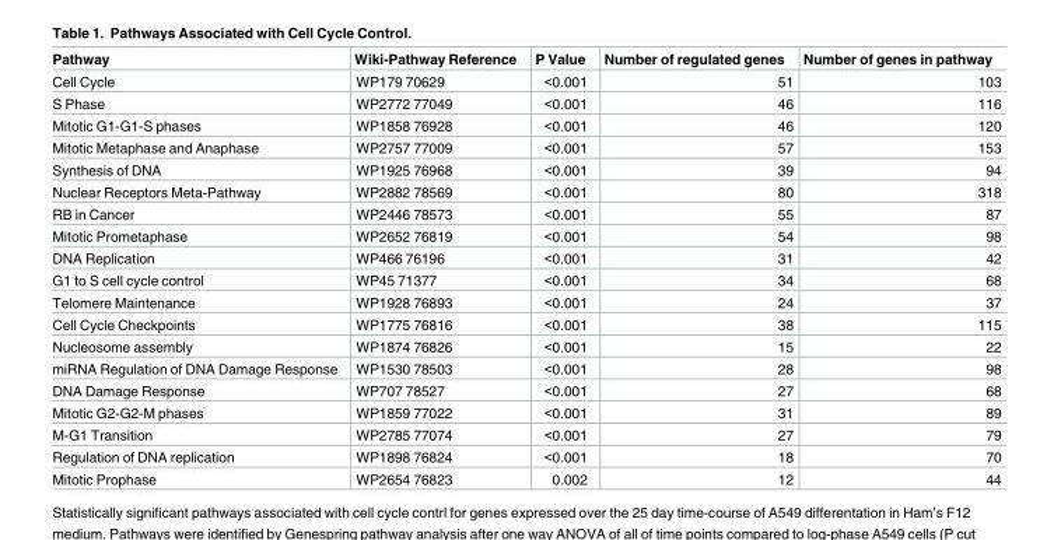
<table><thead><tr><td>Pathway</td><td>Wiki-Pathway Reference</td><td>P Value</td><td>Number of regulated genes</td><td>Number of genes in pathway</td></tr></thead><tbody><tr><td>Cell Cycle</td><td>WP179 70629</td><td>&lt;0.001</td><td>51</td><td>103</td></tr><tr><td>S Phase</td><td>WP2772 77049</td><td>&lt;0.001</td><td>46</td><td>116</td></tr><tr><td>Mitotic G1-G1-S phases</td><td>WP1858 76928</td><td>&lt;0.001</td><td>46</td><td>120</td></tr><tr><td>Mitotic Metaphase and Anaphase</td><td>WP2757 77009</td><td>&lt;0.001</td><td>57</td><td>153</td></tr><tr><td>Synthesis of DNA</td><td>WP1925 76968</td><td>&lt;0.001</td><td>39</td><td>94</td></tr><tr><td>Nuclear Receptors Meta-Pathway</td><td>WP2882 78569</td><td>&lt;0.001</td><td>80</td><td>318</td></tr><tr><td>RB in Cancer</td><td>WP2446 78573</td><td>&lt;0.001</td><td>55</td><td>87</td></tr><tr><td>Mitotic Prometaphase</td><td>WP2652 76819</td><td>&lt;0.001</td><td>54</td><td>98</td></tr><tr><td>DNA Replication</td><td>WP466 76196</td><td>&lt;0.001</td><td>31</td><td>42</td></tr><tr><td>G1 to S cell cycle control</td><td>WP45 71377</td><td>&lt;0.001</td><td>34</td><td>68</td></tr><tr><td>Telomere Maintenance</td><td>WP1928 76893</td><td>&lt;0.001</td><td>24</td><td>37</td></tr><tr><td>Cell Cycle Checkpoints</td><td>WP1775 76816</td><td>&lt;0.001</td><td>38</td><td>115</td></tr><tr><td>Nucleosome assembly</td><td>WP1874 76826</td><td>&lt;0.001</td><td>15</td><td>22</td></tr><tr><td>miRNA Regulation of DNA Damage Response</td><td>WP1530 78503</td><td>&lt;0.001</td><td>28</td><td>98</td></tr><tr><td>DNA Damage Response</td><td>WP707 78527</td><td>&lt;0.001</td><td>27</td><td>68</td></tr><tr><td>Mitotic G2-G2-M phases</td><td>WP1859 77022</td><td>&lt;0.001</td><td>31</td><td>89</td></tr><tr><td>M-G1 Transition</td><td>WP2785 77074</td><td>&lt;0.001</td><td>27</td><td>79</td></tr><tr><td>Regulation of DNA replication</td><td>WP1898 76824</td><td>&lt;0.001</td><td>18</td><td>70</td></tr><tr><td>Mitotic Prophase</td><td>WP2654 76823</td><td>0.002</td><td>12</td><td>44</td></tr></tbody></table>